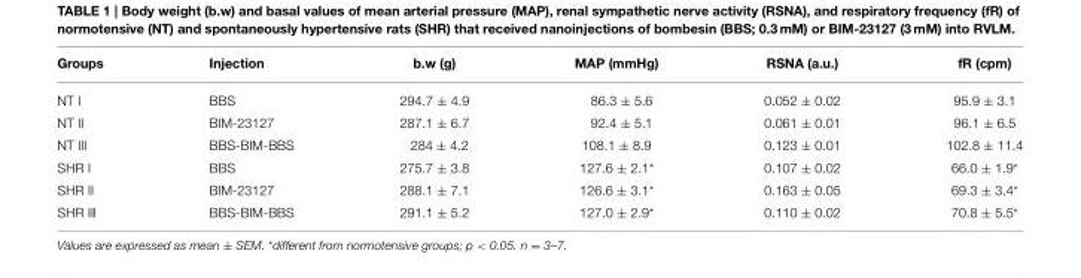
<table><thead><tr><td>Groups</td><td>Injection</td><td>b.w (g)</td><td>MAP (mmHg)</td><td>RSNA (a.u.)</td><td>fR (cpm)</td></tr></thead><tbody><tr><td>NT I</td><td>BBS</td><td>294.7 ± 4.9</td><td>86.3 ± 5.6</td><td>0.052 ± 0.02</td><td>95.9 ± 3.1</td></tr><tr><td>NT II</td><td>BIM-23127</td><td>287.1 ± 6.7</td><td>92.4 ± 5.1</td><td>0.061 ± 0.01</td><td>96.1 ± 6.5</td></tr><tr><td>NT III</td><td>BBS-BIM-BBS</td><td>284 ± 4.2</td><td>108.1 ± 8.9</td><td>0.123 ± 0.01</td><td>102.8 ± 11.4</td></tr><tr><td>SHR I</td><td>BBS</td><td>275.7 ± 3.8</td><td>127.6 ± 2.1*</td><td>0.107 ± 0.02</td><td>66.0 ± 1.9*</td></tr><tr><td>SHR II</td><td>BIM-23127</td><td>288.1 ± 7.1</td><td>126.6 ± 3.1*</td><td>0.163 ± 0.05</td><td>69.3 ± 3.4*</td></tr><tr><td>SHR III</td><td>BBS-BIM-BBS</td><td>291.1 ± 5.2</td><td>127.0 ± 2.9*</td><td>0.110 ± 0.02</td><td>70.8 ± 5.5*</td></tr></tbody></table>